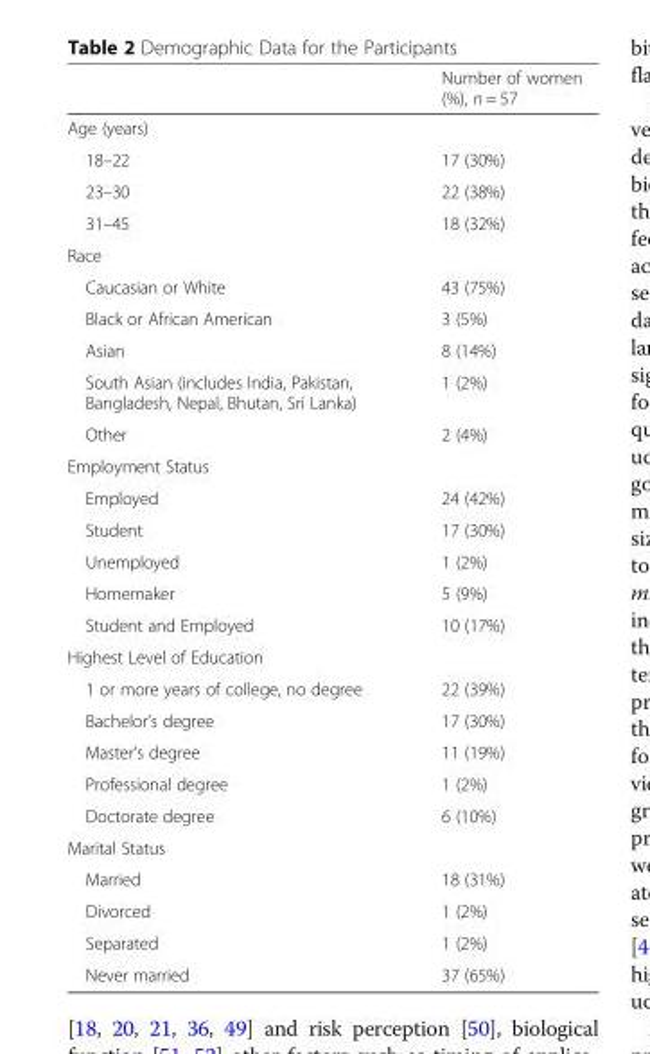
<table><thead><tr><td></td><td>Number of women (%), n = 57</td></tr></thead><tbody><tr><td colspan="2">Age (years)</td></tr><tr><td>18–22</td><td>17 (30%)</td></tr><tr><td>23–30</td><td>22 (38%)</td></tr><tr><td>31–45</td><td>18 (32%)</td></tr><tr><td colspan="2">Race</td></tr><tr><td>Caucasian or White</td><td>43 (75%)</td></tr><tr><td>Black or African American</td><td>3 (5%)</td></tr><tr><td>Asian</td><td>8 (14%)</td></tr><tr><td>South Asian (includes India, Pakistan, Bangladesh, Nepal, Bhutan, Sri Lanka)</td><td>1 (2%)</td></tr><tr><td>Other</td><td>2 (4%)</td></tr><tr><td colspan="2">Employment Status</td></tr><tr><td>Employed</td><td>24 (42%)</td></tr><tr><td>Student</td><td>17 (30%)</td></tr><tr><td>Unemployed</td><td>1 (2%)</td></tr><tr><td>Homemaker</td><td>5 (9%)</td></tr><tr><td>Student and Employed</td><td>10 (17%)</td></tr><tr><td colspan="2">Highest Level of Education</td></tr><tr><td>1 or more years of college, no degree</td><td>22 (39%)</td></tr><tr><td>Bachelor’s degree</td><td>17 (30%)</td></tr><tr><td>Master’s degree</td><td>11 (19%)</td></tr><tr><td>Professional degree</td><td>1 (2%)</td></tr><tr><td>Doctorate degree</td><td>6 (10%)</td></tr><tr><td colspan="2">Marital Status</td></tr><tr><td>Married</td><td>18 (31%)</td></tr><tr><td>Divorced</td><td>1 (2%)</td></tr><tr><td>Separated</td><td>1 (2%)</td></tr><tr><td>Never married</td><td>37 (65%)</td></tr></tbody></table>